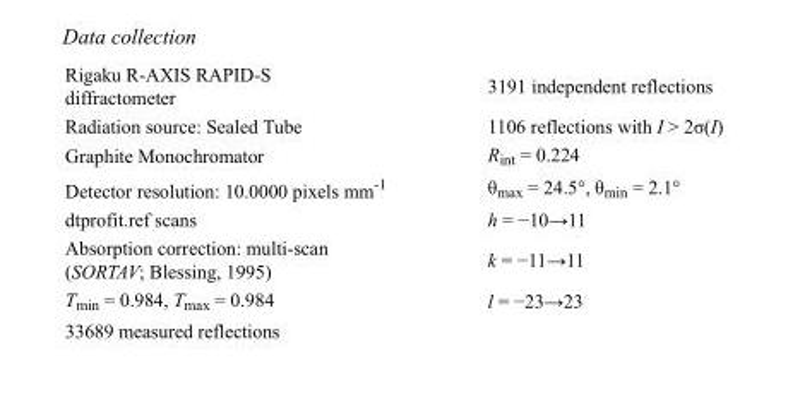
<table><tbody><tr><td>Rigaku R-AXIS RAPID-S diffractometer</td><td>3191 independent reflections</td></tr><tr><td>Radiation source: Sealed Tube</td><td>1106 reflections with I &gt; 2σ(I)</td></tr><tr><td>Graphite Monochromator</td><td>R<sub>int</sub> = 0.224</td></tr><tr><td>Detector resolution: 10.0000 pixels mm<sup>-1</sup></td><td>θ<sub>max</sub> = 24.5°, θ<sub>min</sub> = 2.1°</td></tr><tr><td>dtprofit.ref scans</td><td>h = −10→11</td></tr><tr><td>Absorption correction: multi-scan (SORTAV; Blessing, 1995)</td><td>k = −11→11</td></tr><tr><td>T<sub>min</sub> = 0.984, T<sub>max</sub> = 0.984</td><td>l = −23→23</td></tr><tr><td>33689 measured reflections</td><td></td></tr></tbody></table>